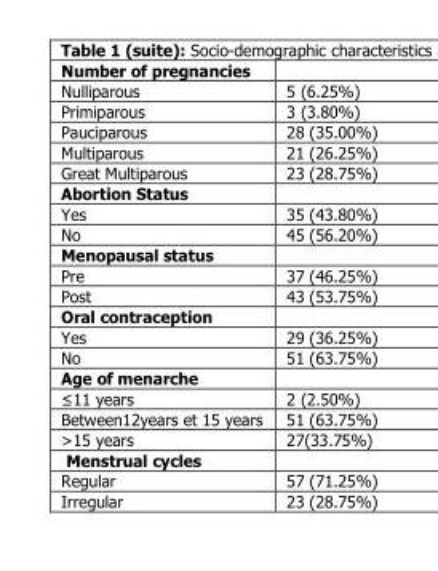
<table><tbody><tr><td colspan="2">Number of pregnancies</td></tr><tr><td>Nulliparous</td><td>5 (6.25%)</td></tr><tr><td>Primiparous</td><td>3 (3.80%)</td></tr><tr><td>Pauciparous</td><td>28 (35.00%)</td></tr><tr><td>Multiparous</td><td>21 (26.25%)</td></tr><tr><td>Great Multiparous</td><td>23 (28.75%)</td></tr><tr><td colspan="2">Abortion Status</td></tr><tr><td>Yes</td><td>35 (43.80%)</td></tr><tr><td>No</td><td>45 (56.20%)</td></tr><tr><td colspan="2">Menopausal status</td></tr><tr><td>Pre</td><td>37 (46.25%)</td></tr><tr><td>Post</td><td>43 (53.75%)</td></tr><tr><td colspan="2">Oral contraception</td></tr><tr><td>Yes</td><td>29 (36.25%)</td></tr><tr><td>No</td><td>51 (63.75%)</td></tr><tr><td colspan="2">Age of menarche</td></tr><tr><td>≤11 years</td><td>2 (2.50%)</td></tr><tr><td>Between12years et 15 years</td><td>51 (63.75%)</td></tr><tr><td>&gt;15 years</td><td>27(33.75%)</td></tr><tr><td colspan="2">Menstrual cycles</td></tr><tr><td>Regular</td><td>57 (71.25%)</td></tr><tr><td>Irregular</td><td>23 (28.75%)</td></tr></tbody></table>